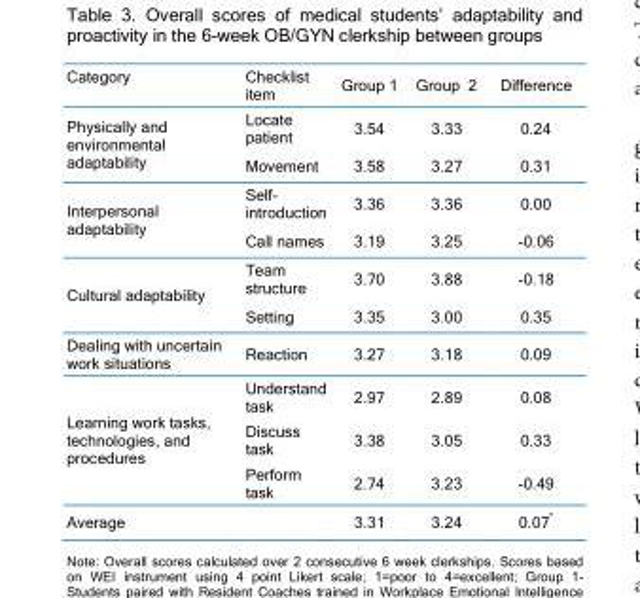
<table><thead><tr><td>Category</td><td>Checklist item</td><td>Group 1</td><td>Group 2</td><td>Difference</td></tr></thead><tbody><tr><td rowspan="2">Physically and environmental adaptability</td><td>Locate patient</td><td>3.54</td><td>3.33</td><td>0.24</td></tr><tr><td>Movement</td><td>3.58</td><td>3.27</td><td>0.31</td></tr><tr><td rowspan="2">Interpersonal adaptability</td><td>Self- introduction</td><td>3.36</td><td>3.36</td><td>0.00</td></tr><tr><td>Call names</td><td>3.19</td><td>3.25</td><td>-0.06</td></tr><tr><td rowspan="2">Cultural adaptability</td><td>Team structure</td><td>3.70</td><td>3.88</td><td>-0.18</td></tr><tr><td>Setting</td><td>3.35</td><td>3.00</td><td>0.35</td></tr><tr><td>Dealing with uncertain work situations</td><td>Reaction</td><td>3.27</td><td>3.18</td><td>0.09</td></tr><tr><td rowspan="3">Learning work tasks, technologies, and procedures</td><td>Understand task</td><td>2.97</td><td>2.89</td><td>0.08</td></tr><tr><td>Discuss task</td><td>3.38</td><td>3.05</td><td>0.33</td></tr><tr><td>Perform task</td><td>2.74</td><td>3.23</td><td>-0.49</td></tr><tr><td colspan="2">Average</td><td>3.31</td><td>3.24</td><td>0.07*</td></tr></tbody></table>